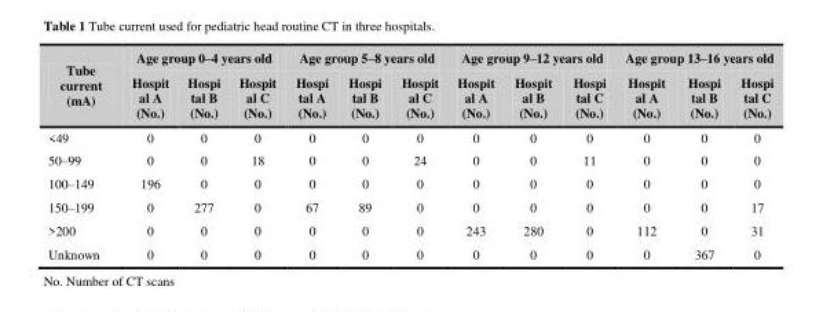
<table><thead><tr><td rowspan="2">Tube current (mA)</td><td colspan="3">Age group 0–4 years old</td><td colspan="3">Age group 5–8 years old</td><td colspan="3">Age group 9–12 years old</td><td colspan="3">Age group 13–16 years old</td></tr><tr><td>Hospit al A (No.)</td><td>Hospi tal B (No.)</td><td>Hospit al C (No.)</td><td>Hospi tal A (No.)</td><td>Hospi tal B (No.)</td><td>Hospit al C (No.)</td><td>Hospit al A (No.)</td><td>Hospit al B (No.)</td><td>Hospi tal C (No.)</td><td>Hospit al A (No.)</td><td>Hospi tal B (No.)</td><td>Hospi tal C (No.)</td></tr></thead><tbody><tr><td>&lt;49</td><td>0</td><td>0</td><td>0</td><td>0</td><td>0</td><td>0</td><td>0</td><td>0</td><td>0</td><td>0</td><td>0</td><td>0</td></tr><tr><td>50–99</td><td>0</td><td>0</td><td>18</td><td>0</td><td>0</td><td>24</td><td>0</td><td>0</td><td>11</td><td>0</td><td>0</td><td>0</td></tr><tr><td>100–149</td><td>196</td><td>0</td><td>0</td><td>0</td><td>0</td><td>0</td><td>0</td><td>0</td><td>0</td><td>0</td><td>0</td><td>0</td></tr><tr><td>150–199</td><td>0</td><td>277</td><td>0</td><td>67</td><td>89</td><td>0</td><td>0</td><td>0</td><td>0</td><td>0</td><td>0</td><td>17</td></tr><tr><td>&gt;200</td><td>0</td><td>0</td><td>0</td><td>0</td><td>0</td><td>0</td><td>243</td><td>280</td><td>0</td><td>112</td><td>0</td><td>31</td></tr><tr><td>Unknown</td><td>0</td><td>0</td><td>0</td><td>0</td><td>0</td><td>0</td><td>0</td><td>0</td><td>0</td><td>0</td><td>367</td><td>0</td></tr></tbody></table>